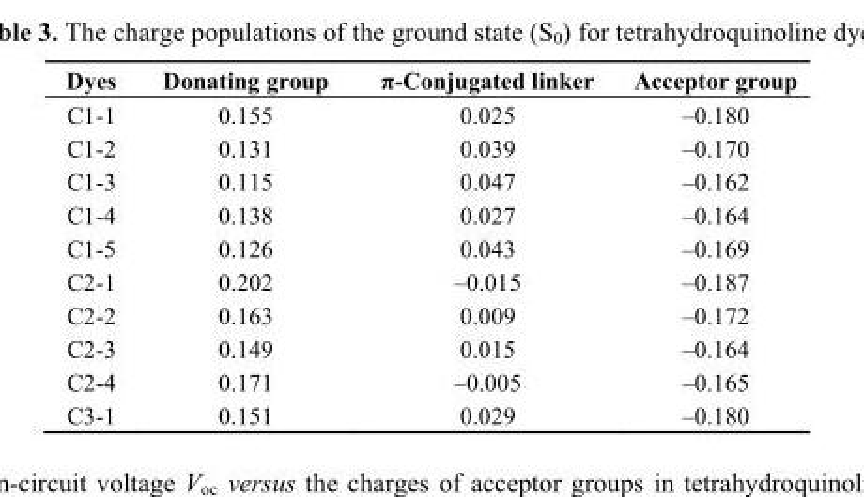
<table><thead><tr><td>Dyes</td><td>Donating group</td><td>π-Conjugated linker</td><td>Acceptor group</td></tr></thead><tbody><tr><td>C1-1</td><td>0.155</td><td>0.025</td><td>–0.180</td></tr><tr><td>C1-2</td><td>0.131</td><td>0.039</td><td>–0.170</td></tr><tr><td>C1-3</td><td>0.115</td><td>0.047</td><td>–0.162</td></tr><tr><td>C1-4</td><td>0.138</td><td>0.027</td><td>–0.164</td></tr><tr><td>C1-5</td><td>0.126</td><td>0.043</td><td>–0.169</td></tr><tr><td>C2-1</td><td>0.202</td><td>–0.015</td><td>–0.187</td></tr><tr><td>C2-2</td><td>0.163</td><td>0.009</td><td>–0.172</td></tr><tr><td>C2-3</td><td>0.149</td><td>0.015</td><td>–0.164</td></tr><tr><td>C2-4</td><td>0.171</td><td>–0.005</td><td>–0.165</td></tr><tr><td>C3-1</td><td>0.151</td><td>0.029</td><td>–0.180</td></tr></tbody></table>